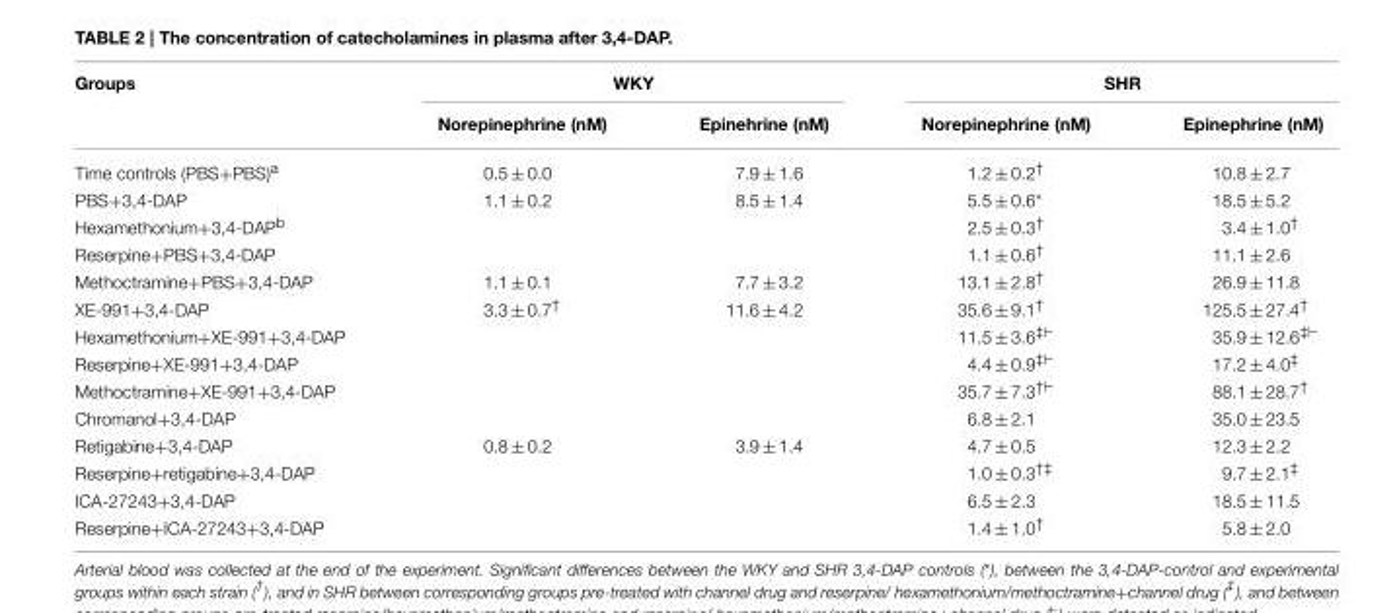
<table><thead><tr><td rowspan="2">Groups</td><td colspan="2">WKY</td><td colspan="2">SHR</td></tr><tr><td>Norepinephrine (nM)</td><td>Epinehrine (nM)</td><td>Norepinephrine (nM)</td><td>Epinephrine (nM)</td></tr></thead><tbody><tr><td>Time controls (PBS+PBS)<sup>a</sup></td><td>0.5 ± 0.0</td><td>7.9 ± 1.6</td><td>1.2 ± 0.2<sup>†</sup></td><td>10.8 ± 2.7</td></tr><tr><td>PBS+3,4-DAP</td><td>1.1 ± 0.2</td><td>8.5 ± 1.4</td><td>5.5 ± 0.6*</td><td>18.5 ± 5.2</td></tr><tr><td>Hexamethonium+3,4-DAP<sup>b</sup></td><td></td><td></td><td>2.5 ± 0.3<sup>†</sup></td><td>3.4 ± 1.0<sup>†</sup></td></tr><tr><td>Reserpine+PBS+3,4-DAP</td><td></td><td></td><td>1.1 ± 0.6<sup>†</sup></td><td>11.1 ± 2.6</td></tr><tr><td>Methoctramine+PBS+3,4-DAP</td><td>1.1 ± 0.1</td><td>7.7 ± 3.2</td><td>13.1 ± 2.8<sup>†</sup></td><td>26.9 ± 11.8</td></tr><tr><td>XE-991+3,4-DAP</td><td>3.3 ± 0.7<sup>†</sup></td><td>11.6 ± 4.2</td><td>35.6 ± 9.1<sup>†</sup></td><td>125.5 ± 27.4<sup>†</sup></td></tr><tr><td>Hexamethonium+XE-991+3,4-DAP</td><td></td><td></td><td>11.5 ± 3.6<sup>‡⊢</sup></td><td>35.9 ± 12.6<sup>‡⊢</sup></td></tr><tr><td>Reserpine+XE-991+3,4-DAP</td><td></td><td></td><td>4.4 ± 0.9<sup>‡⊢</sup></td><td>17.2 ± 4.0<sup>‡</sup></td></tr><tr><td>Methoctramine+XE-991+3,4-DAP</td><td></td><td></td><td>35.7 ± 7.3<sup>†⊢</sup></td><td>88.1 ± 28.7<sup>†</sup></td></tr><tr><td>Chromanol+3,4-DAP</td><td></td><td></td><td>6.8 ± 2.1</td><td>35.0 ± 23.5</td></tr><tr><td>Retigabine+3,4-DAP</td><td>0.8 ± 0.2</td><td>3.9 ± 1.4</td><td>4.7 ± 0.5</td><td>12.3 ± 2.2</td></tr><tr><td>Reserpine+retigabine+3,4-DAP</td><td></td><td></td><td>1.0 ± 0.3<sup>†‡</sup></td><td>9.7 ± 2.1<sup>‡</sup></td></tr><tr><td>ICA-27243+3,4-DAP</td><td></td><td></td><td>6.5 ± 2.3</td><td>18.5 ± 11.5</td></tr><tr><td>Reserpine+ICA-27243+3,4-DAP</td><td></td><td></td><td>1.4 ± 1.0<sup>†</sup></td><td>5.8 ± 2.0</td></tr></tbody></table>